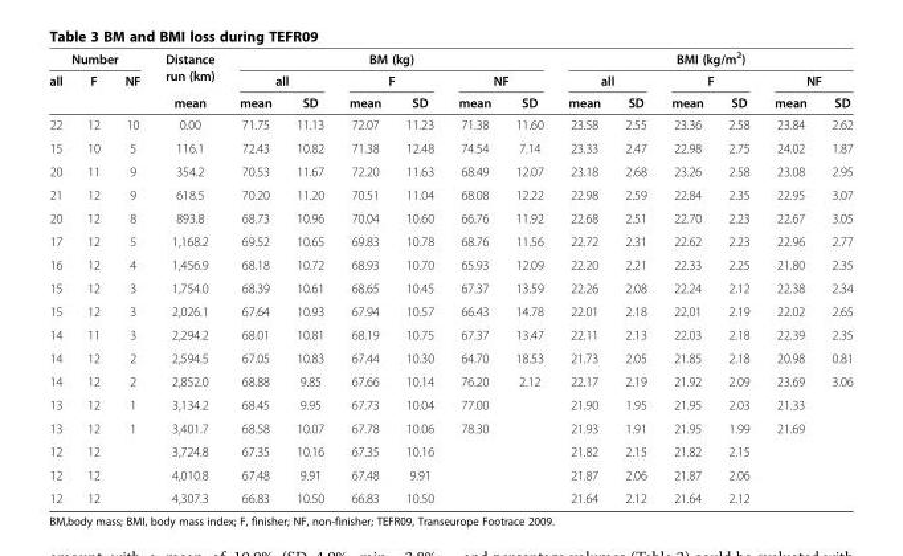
<table><thead><tr><td colspan="3">Number</td><td rowspan="3">Distance run (km) mean</td><td colspan="6">BM (kg)</td><td colspan="6">BMI (kg/m<sup>2</sup>)</td></tr><tr><td rowspan="2">all</td><td rowspan="2">F</td><td rowspan="2">NF</td><td colspan="2">all</td><td colspan="2">F</td><td colspan="2">NF</td><td colspan="2">all</td><td colspan="2">F</td><td colspan="2">NF</td></tr><tr><td>mean</td><td>SD</td><td>mean</td><td>SD</td><td>mean</td><td>SD</td><td>mean</td><td>SD</td><td>mean</td><td>SD</td><td>mean</td><td>SD</td></tr></thead><tbody><tr><td>22</td><td>12</td><td>10</td><td>0.00</td><td>71.75</td><td>11.13</td><td>72.07</td><td>11.23</td><td>71.38</td><td>11.60</td><td>23.58</td><td>2.55</td><td>23.36</td><td>2.58</td><td>23.84</td><td>2.62</td></tr><tr><td>15</td><td>10</td><td>5</td><td>116.1</td><td>72.43</td><td>10.82</td><td>71.38</td><td>12.48</td><td>74.54</td><td>7.14</td><td>23.33</td><td>2.47</td><td>22.98</td><td>2.75</td><td>24.02</td><td>1.87</td></tr><tr><td>20</td><td>11</td><td>9</td><td>354.2</td><td>70.53</td><td>11.67</td><td>72.20</td><td>11.63</td><td>68.49</td><td>12.07</td><td>23.18</td><td>2.68</td><td>23.26</td><td>2.58</td><td>23.08</td><td>2.95</td></tr><tr><td>21</td><td>12</td><td>9</td><td>618.5</td><td>70.20</td><td>11.20</td><td>70.51</td><td>11.04</td><td>68.08</td><td>12.22</td><td>22.98</td><td>2.59</td><td>22.84</td><td>2.35</td><td>22.95</td><td>3.07</td></tr><tr><td>20</td><td>12</td><td>8</td><td>893.8</td><td>68.73</td><td>10.96</td><td>70.04</td><td>10.60</td><td>66.76</td><td>11.92</td><td>22.68</td><td>2.51</td><td>22.70</td><td>2.23</td><td>22.67</td><td>3.05</td></tr><tr><td>17</td><td>12</td><td>5</td><td>1,168.2</td><td>69.52</td><td>10.65</td><td>69.83</td><td>10.78</td><td>68.76</td><td>11.56</td><td>22.72</td><td>2.31</td><td>22.62</td><td>2.23</td><td>22.96</td><td>2.77</td></tr><tr><td>16</td><td>12</td><td>4</td><td>1,456.9</td><td>68.18</td><td>10.72</td><td>68.93</td><td>10.70</td><td>65.93</td><td>12.09</td><td>22.20</td><td>2.21</td><td>22.33</td><td>2.25</td><td>21.80</td><td>2.35</td></tr><tr><td>15</td><td>12</td><td>3</td><td>1,754.0</td><td>68.39</td><td>10.61</td><td>68.65</td><td>10.45</td><td>67.37</td><td>13.59</td><td>22.26</td><td>2.08</td><td>22.24</td><td>2.12</td><td>22.38</td><td>2.34</td></tr><tr><td>15</td><td>12</td><td>3</td><td>2,026.1</td><td>67.64</td><td>10.93</td><td>67.94</td><td>10.57</td><td>66.43</td><td>14.78</td><td>22.01</td><td>2.18</td><td>22.01</td><td>2.19</td><td>22.02</td><td>2.65</td></tr><tr><td>14</td><td>11</td><td>3</td><td>2,294.2</td><td>68.01</td><td>10.81</td><td>68.19</td><td>10.75</td><td>67.37</td><td>13.47</td><td>22.11</td><td>2.13</td><td>22.03</td><td>2.18</td><td>22.39</td><td>2.35</td></tr><tr><td>14</td><td>12</td><td>2</td><td>2,594.5</td><td>67.05</td><td>10.83</td><td>67.44</td><td>10.30</td><td>64.70</td><td>18.53</td><td>21.73</td><td>2.05</td><td>21.85</td><td>2.18</td><td>20.98</td><td>0.81</td></tr><tr><td>14</td><td>12</td><td>2</td><td>2,852.0</td><td>68.88</td><td>9.85</td><td>67.66</td><td>10.14</td><td>76.20</td><td>2.12</td><td>22.17</td><td>2.19</td><td>21.92</td><td>2.09</td><td>23.69</td><td>3.06</td></tr><tr><td>13</td><td>12</td><td>1</td><td>3,134.2</td><td>68.45</td><td>9.95</td><td>67.73</td><td>10.04</td><td>77.00</td><td></td><td>21.90</td><td>1.95</td><td>21.95</td><td>2.03</td><td>21.33</td><td></td></tr><tr><td>13</td><td>12</td><td>1</td><td>3,401.7</td><td>68.58</td><td>10.07</td><td>67.78</td><td>10.06</td><td>78.30</td><td></td><td>21.93</td><td>1.91</td><td>21.95</td><td>1.99</td><td>21.69</td><td></td></tr><tr><td>12</td><td>12</td><td></td><td>3,724.8</td><td>67.35</td><td>10.16</td><td>67.35</td><td>10.16</td><td></td><td></td><td>21.82</td><td>2.15</td><td>21.82</td><td>2.15</td><td></td><td></td></tr><tr><td>12</td><td>12</td><td></td><td>4,010.8</td><td>67.48</td><td>9.91</td><td>67.48</td><td>9.91</td><td></td><td></td><td>21.87</td><td>2.06</td><td>21.87</td><td>2.06</td><td></td><td></td></tr><tr><td>12</td><td>12</td><td></td><td>4,307.3</td><td>66.83</td><td>10.50</td><td>66.83</td><td>10.50</td><td></td><td></td><td>21.64</td><td>2.12</td><td>21.64</td><td>2.12</td><td></td><td></td></tr></tbody></table>